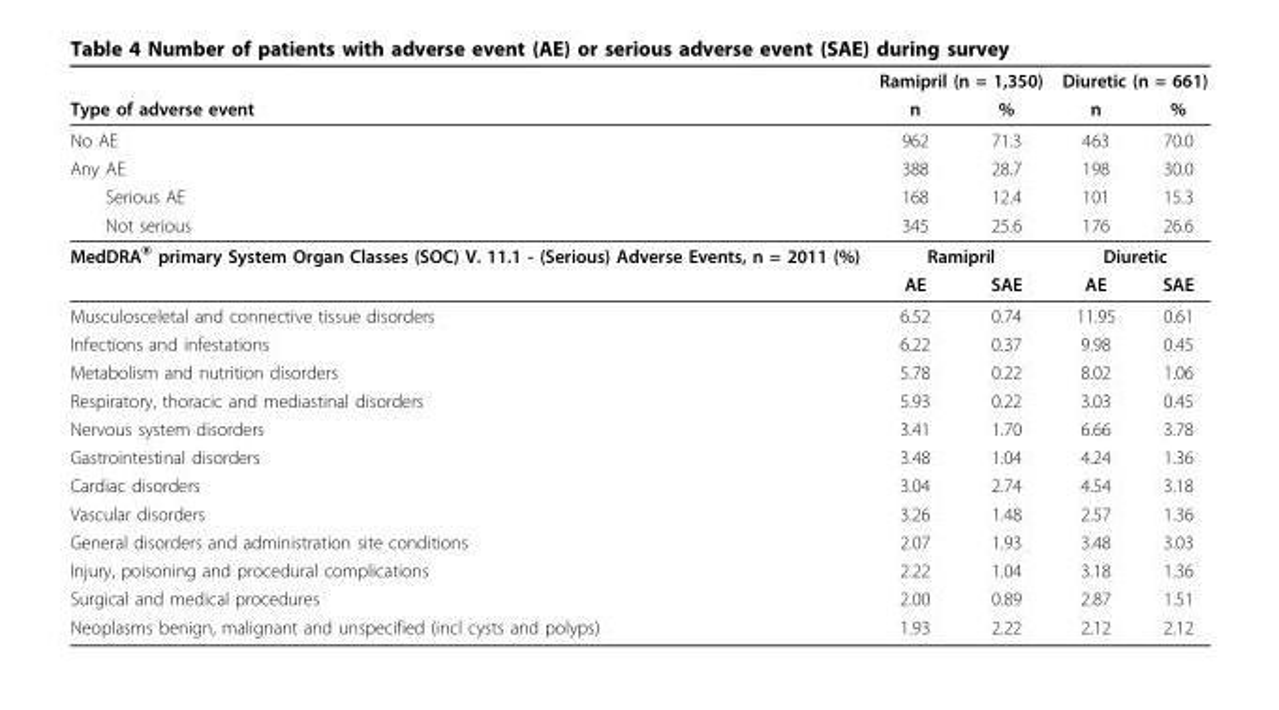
<table><thead><tr><td rowspan="2">Type of adverse event</td><td colspan="2">Ramipril (n = 1,350)</td><td colspan="2">Diuretic (n = 661)</td></tr><tr><td>n</td><td>%</td><td>n</td><td>%</td></tr></thead><tbody><tr><td>No AE</td><td>962</td><td>71.3</td><td>463</td><td>70.0</td></tr><tr><td>Any AE</td><td>388</td><td>28.7</td><td>198</td><td>30.0</td></tr><tr><td>Serious AE</td><td>168</td><td>12.4</td><td>101</td><td>15.3</td></tr><tr><td>Not serious</td><td>345</td><td>25.6</td><td>176</td><td>26.6</td></tr><tr><td rowspan="2">MedDRA<sup>®</sup> primary System Organ Classes (SOC) V. 11.1 - (Serious) Adverse Events, n = 2011 (%)</td><td colspan="2">Ramipril</td><td colspan="2">Diuretic</td></tr><tr><td>AE</td><td>SAE</td><td>AE</td><td>SAE</td></tr><tr><td>Musculosceletal and connective tissue disorders</td><td>6.52</td><td>0.74</td><td>11.95</td><td>0.61</td></tr><tr><td>Infections and infestations</td><td>6.22</td><td>0.37</td><td>9.98</td><td>0.45</td></tr><tr><td>Metabolism and nutrition disorders</td><td>5.78</td><td>0.22</td><td>8.02</td><td>1.06</td></tr><tr><td>Respiratory, thoracic and mediastinal disorders</td><td>5.93</td><td>0.22</td><td>3.03</td><td>0.45</td></tr><tr><td>Nervous system disorders</td><td>3.41</td><td>1.70</td><td>6.66</td><td>3.78</td></tr><tr><td>Gastrointestinal disorders</td><td>3.48</td><td>1.04</td><td>4.24</td><td>1.36</td></tr><tr><td>Cardiac disorders</td><td>3.04</td><td>2.74</td><td>4.54</td><td>3.18</td></tr><tr><td>Vascular disorders</td><td>3.26</td><td>1.48</td><td>2.57</td><td>1.36</td></tr><tr><td>General disorders and administration site conditions</td><td>2.07</td><td>1.93</td><td>3.48</td><td>3.03</td></tr><tr><td>Injury, poisoning and procedural complications</td><td>2.22</td><td>1.04</td><td>3.18</td><td>1.36</td></tr><tr><td>Surgical and medical procedures</td><td>2.00</td><td>0.89</td><td>2.87</td><td>1.51</td></tr><tr><td>Neoplasms benign, malignant and unspecified (incl cysts and polyps)</td><td>1.93</td><td>2.22</td><td>2.12</td><td>2.12</td></tr></tbody></table>